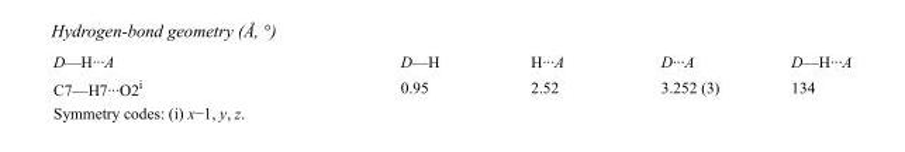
<table><tbody><tr><td>D—H···A</td><td>D—H</td><td>H···A</td><td>D···A</td><td>D—H···A</td></tr><tr><td>C7—H7···O2<sup>i</sup></td><td>0.95</td><td>2.52</td><td>3.252 (3)</td><td>134</td></tr></tbody></table>